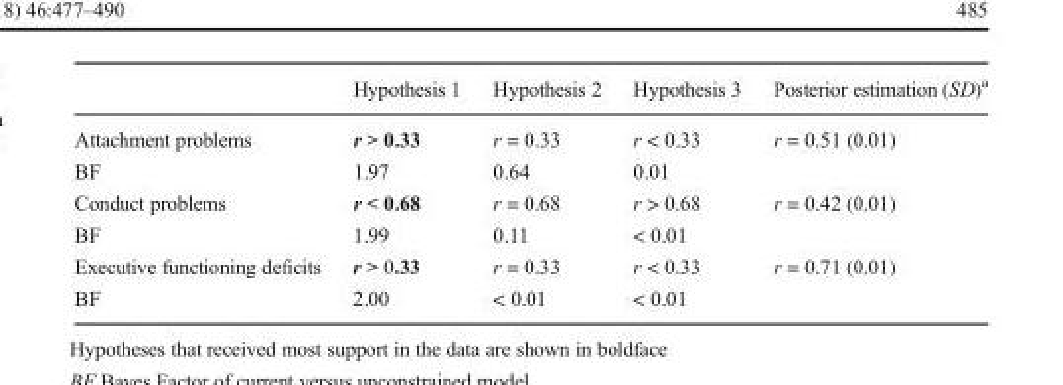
<table><thead><tr><td></td><td>Hypothesis 1</td><td>Hypothesis 2</td><td>Hypothesis 3</td><td>Posterior estimation (SD)<sup>a</sup></td></tr></thead><tbody><tr><td>Attachment problems</td><td>r &gt; 0.33</td><td>r = 0.33</td><td>r &lt; 0.33</td><td>r = 0.51 (0.01)</td></tr><tr><td>BF</td><td>1.97</td><td>0.64</td><td>0.01</td><td></td></tr><tr><td>Conduct problems</td><td>r &lt; 0.68</td><td>r = 0.68</td><td>r &gt; 0.68</td><td>r = 0.42 (0.01)</td></tr><tr><td>BF</td><td>1.99</td><td>0.11</td><td>&lt; 0.01</td><td></td></tr><tr><td>Executive functioning deficits</td><td>r &gt; 0.33</td><td>r = 0.33</td><td>r &lt; 0.33</td><td>r = 0.71 (0.01)</td></tr><tr><td>BF</td><td>2.00</td><td>&lt; 0.01</td><td>&lt; 0.01</td><td></td></tr></tbody></table>